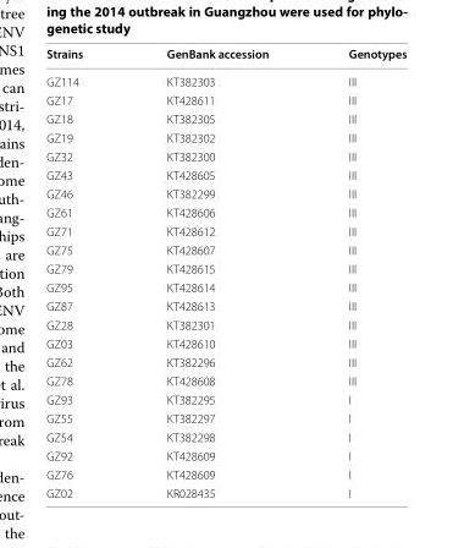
<table><thead><tr><td>Strains</td><td>GenBank accession</td><td>Genotypes</td></tr></thead><tbody><tr><td>GZ114</td><td>KT382303</td><td>III</td></tr><tr><td>GZ17</td><td>KT428611</td><td>III</td></tr><tr><td>GZ18</td><td>KT382305</td><td>III</td></tr><tr><td>GZ19</td><td>KT382302</td><td>III</td></tr><tr><td>GZ32</td><td>KT382300</td><td>III</td></tr><tr><td>GZ43</td><td>KT428605</td><td>III</td></tr><tr><td>GZ46</td><td>KT382299</td><td>III</td></tr><tr><td>GZ61</td><td>KT428606</td><td>III</td></tr><tr><td>GZ71</td><td>KT428612</td><td>III</td></tr><tr><td>GZ75</td><td>KT428607</td><td>III</td></tr><tr><td>GZ79</td><td>KT428615</td><td>III</td></tr><tr><td>GZ95</td><td>KT428614</td><td>III</td></tr><tr><td>GZ87</td><td>KT428613</td><td>III</td></tr><tr><td>GZ28</td><td>KT382301</td><td>III</td></tr><tr><td>GZ03</td><td>KT428610</td><td>III</td></tr><tr><td>GZ62</td><td>KT382296</td><td>III</td></tr><tr><td>GZ78</td><td>KT428608</td><td>III</td></tr><tr><td>GZ93</td><td>KT382295</td><td>I</td></tr><tr><td>GZ55</td><td>KT382297</td><td>I</td></tr><tr><td>GZ54</td><td>KT382298</td><td>I</td></tr><tr><td>GZ92</td><td>KT428609</td><td>I</td></tr><tr><td>GZ76</td><td>KT428609</td><td>I</td></tr><tr><td>GZ02</td><td>KR028435</td><td>I</td></tr></tbody></table>